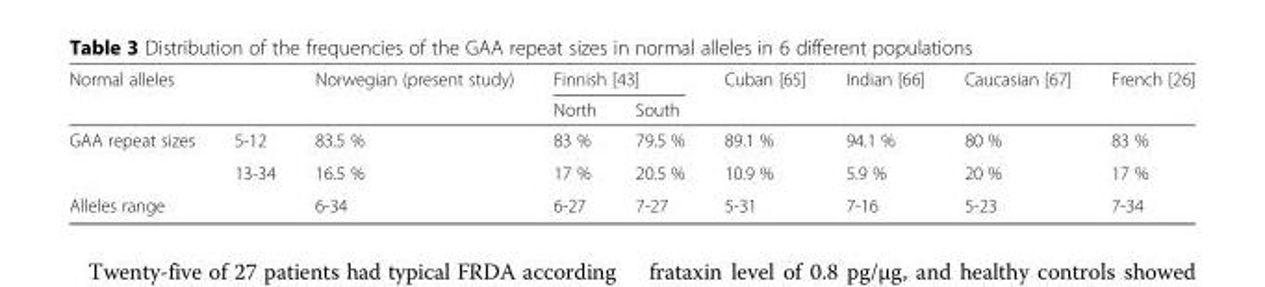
<table><thead><tr><td rowspan="2">Normal alleles</td><td rowspan="2"></td><td rowspan="2">Norwegian (present study)</td><td colspan="2">Finnish [43]</td><td rowspan="2">Cuban [65]</td><td rowspan="2">Indian [66]</td><td rowspan="2">Caucasian [67]</td><td rowspan="2">French [26]</td></tr><tr><td>North</td><td>South</td></tr></thead><tbody><tr><td rowspan="2">GAA repeat sizes</td><td>5-12</td><td>83.5 %</td><td>83 %</td><td>79.5 %</td><td>89.1 %</td><td>94.1 %</td><td>80 %</td><td>83 %</td></tr><tr><td>13-34</td><td>16.5 %</td><td>17 %</td><td>20.5 %</td><td>10.9 %</td><td>5.9 %</td><td>20 %</td><td>17 %</td></tr><tr><td>Alleles range</td><td></td><td>6-34</td><td>6-27</td><td>7-27</td><td>5-31</td><td>7-16</td><td>5-23</td><td>7-34</td></tr></tbody></table>